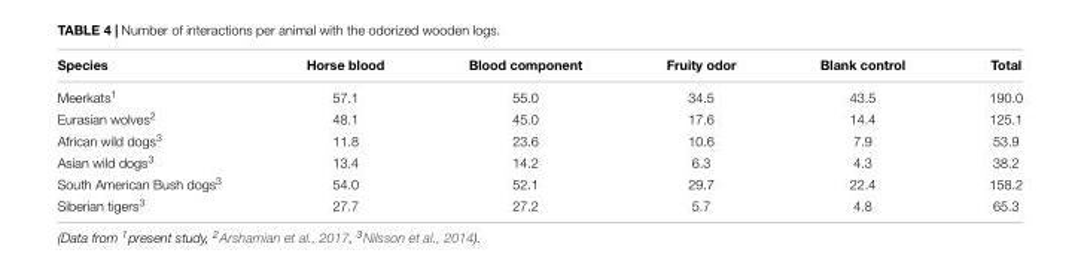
<table><thead><tr><td>Species</td><td>Horse blood</td><td>Blood component</td><td>Fruity odor</td><td>Blank control</td><td>Total</td></tr></thead><tbody><tr><td>Meerkats<sup>1</sup></td><td>57.1</td><td>55.0</td><td>34.5</td><td>43.5</td><td>190.0</td></tr><tr><td>Eurasian wolves<sup>2</sup></td><td>48.1</td><td>45.0</td><td>17.6</td><td>14.4</td><td>125.1</td></tr><tr><td>African wild dogs<sup>3</sup></td><td>11.8</td><td>23.6</td><td>10.6</td><td>7.9</td><td>53.9</td></tr><tr><td>Asian wild dogs<sup>3</sup></td><td>13.4</td><td>14.2</td><td>6.3</td><td>4.3</td><td>38.2</td></tr><tr><td>South American Bush dogs<sup>3</sup></td><td>54.0</td><td>52.1</td><td>29.7</td><td>22.4</td><td>158.2</td></tr><tr><td>Siberian tigers<sup>3</sup></td><td>27.7</td><td>27.2</td><td>5.7</td><td>4.8</td><td>65.3</td></tr></tbody></table>